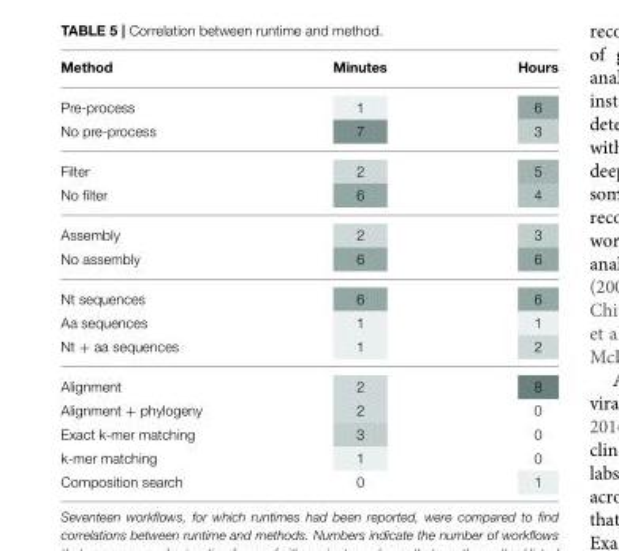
<table><thead><tr><td>Method</td><td>Minutes</td><td>Hours</td></tr></thead><tbody><tr><td>Pre-process</td><td>1</td><td>6</td></tr><tr><td>No pre-process</td><td>7</td><td>3</td></tr><tr><td>Filter</td><td>2</td><td>5</td></tr><tr><td>No filter</td><td>6</td><td>4</td></tr><tr><td>Assembly</td><td>2</td><td>3</td></tr><tr><td>No assembly</td><td>6</td><td>6</td></tr><tr><td>Nt sequences</td><td>6</td><td>6</td></tr><tr><td>Aa sequences</td><td>1</td><td>1</td></tr><tr><td>Nt + aa sequences</td><td>1</td><td>2</td></tr><tr><td>Alignment</td><td>2</td><td>8</td></tr><tr><td>Alignment + phylogeny</td><td>2</td><td>0</td></tr><tr><td>Exact k-mer matching</td><td>3</td><td>0</td></tr><tr><td>k-mer matching</td><td>1</td><td>0</td></tr><tr><td>Composition search</td><td>0</td><td>1</td></tr></tbody></table>